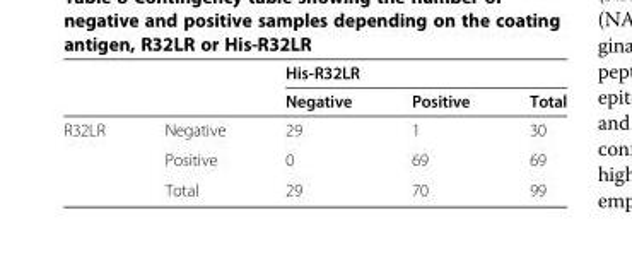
<table><thead><tr><td rowspan="2"></td><td rowspan="2"></td><td colspan="2">His-R32LR</td><td rowspan="2">Total</td></tr><tr><td>Negative</td><td>Positive</td></tr></thead><tbody><tr><td rowspan="3">R32LR</td><td>Negative</td><td>29</td><td>1</td><td>30</td></tr><tr><td>Positive</td><td>0</td><td>69</td><td>69</td></tr><tr><td>Total</td><td>29</td><td>70</td><td>99</td></tr></tbody></table>